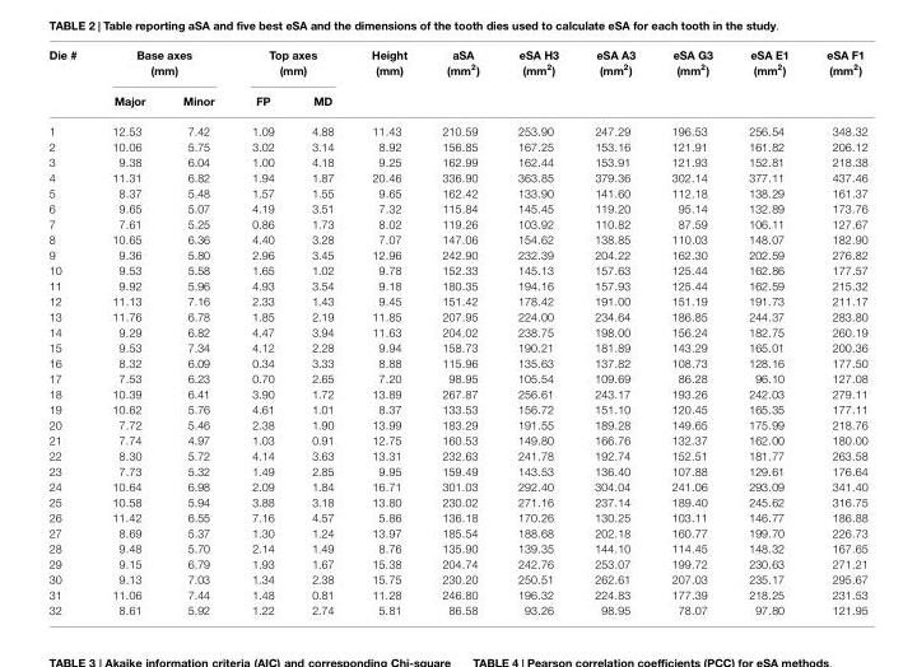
<table><thead><tr><td rowspan="2">Die #</td><td colspan="2">Base axes (mm)</td><td colspan="2">Top axes (mm)</td><td rowspan="2">Height (mm)</td><td rowspan="2">aSA (mm<sup>2</sup>)</td><td rowspan="2">eSA H3 (mm<sup>2</sup>)</td><td rowspan="2">eSA A3 (mm<sup>2</sup>)</td><td rowspan="2">eSA G3 (mm<sup>2</sup>)</td><td rowspan="2">eSA E1 (mm<sup>2</sup>)</td><td rowspan="2">eSA F1 (mm<sup>2</sup>)</td></tr><tr><td>Major</td><td>Minor</td><td>FP</td><td>MD</td></tr></thead><tbody><tr><td>1</td><td>12.53</td><td>7.42</td><td>1.09</td><td>4.88</td><td>11.43</td><td>210.59</td><td>253.90</td><td>247.29</td><td>196.53</td><td>256.54</td><td>348.32</td></tr><tr><td>2</td><td>10.06</td><td>5.75</td><td>3.02</td><td>3.14</td><td>8.92</td><td>156.85</td><td>167.25</td><td>153.16</td><td>121.91</td><td>161.82</td><td>206.12</td></tr><tr><td>3</td><td>9.38</td><td>6.04</td><td>1.00</td><td>4.18</td><td>9.25</td><td>162.99</td><td>162.44</td><td>153.91</td><td>121.93</td><td>152.81</td><td>218.38</td></tr><tr><td>4</td><td>11.31</td><td>6.82</td><td>1.94</td><td>1.87</td><td>20.46</td><td>336.90</td><td>363.85</td><td>379.36</td><td>302.14</td><td>377.11</td><td>437.46</td></tr><tr><td>5</td><td>8.37</td><td>5.48</td><td>1.57</td><td>1.55</td><td>9.65</td><td>162.42</td><td>133.90</td><td>141.60</td><td>112.18</td><td>138.29</td><td>161.37</td></tr><tr><td>6</td><td>9.65</td><td>5.07</td><td>4.19</td><td>3.51</td><td>7.32</td><td>115.84</td><td>145.45</td><td>119.20</td><td>95.14</td><td>132.89</td><td>173.76</td></tr><tr><td>7</td><td>7.61</td><td>5.25</td><td>0.86</td><td>1.73</td><td>8.02</td><td>119.26</td><td>103.92</td><td>110.82</td><td>87.59</td><td>106.11</td><td>127.67</td></tr><tr><td>8</td><td>10.65</td><td>6.36</td><td>4.40</td><td>3.28</td><td>7.07</td><td>147.06</td><td>154.62</td><td>138.85</td><td>110.03</td><td>148.07</td><td>182.90</td></tr><tr><td>9</td><td>9.36</td><td>5.80</td><td>2.96</td><td>3.45</td><td>12.96</td><td>242.90</td><td>232.39</td><td>204.22</td><td>162.30</td><td>202.59</td><td>276.82</td></tr><tr><td>10</td><td>9.53</td><td>5.58</td><td>1.65</td><td>1.02</td><td>9.78</td><td>152.33</td><td>145.13</td><td>157.63</td><td>125.44</td><td>162.86</td><td>177.57</td></tr><tr><td>11</td><td>9.92</td><td>5.96</td><td>4.93</td><td>3.54</td><td>9.18</td><td>180.35</td><td>194.16</td><td>157.93</td><td>125.44</td><td>162.59</td><td>215.32</td></tr><tr><td>12</td><td>11.13</td><td>7.16</td><td>2.33</td><td>1.43</td><td>9.45</td><td>151.42</td><td>178.42</td><td>191.00</td><td>151.19</td><td>191.73</td><td>211.17</td></tr><tr><td>13</td><td>11.76</td><td>6.78</td><td>1.85</td><td>2.19</td><td>11.85</td><td>207.95</td><td>224.00</td><td>234.64</td><td>186.85</td><td>244.37</td><td>283.80</td></tr><tr><td>14</td><td>9.29</td><td>6.82</td><td>4.47</td><td>3.94</td><td>11.63</td><td>204.02</td><td>238.75</td><td>198.00</td><td>156.24</td><td>182.75</td><td>260.19</td></tr><tr><td>15</td><td>9.53</td><td>7.34</td><td>4.12</td><td>2.28</td><td>9.94</td><td>158.73</td><td>190.21</td><td>181.89</td><td>143.29</td><td>165.01</td><td>200.36</td></tr><tr><td>16</td><td>8.32</td><td>6.09</td><td>0.34</td><td>3.33</td><td>8.88</td><td>115.96</td><td>135.63</td><td>137.82</td><td>108.73</td><td>128.16</td><td>177.50</td></tr><tr><td>17</td><td>7.53</td><td>6.23</td><td>0.70</td><td>2.65</td><td>7.20</td><td>98.95</td><td>105.54</td><td>109.69</td><td>86.28</td><td>96.10</td><td>127.08</td></tr><tr><td>18</td><td>10.39</td><td>6.41</td><td>3.90</td><td>1.72</td><td>13.89</td><td>267.87</td><td>256.61</td><td>243.17</td><td>193.26</td><td>242.03</td><td>279.11</td></tr><tr><td>19</td><td>10.62</td><td>5.76</td><td>4.61</td><td>1.01</td><td>8.37</td><td>133.53</td><td>156.72</td><td>151.10</td><td>120.45</td><td>165.35</td><td>177.11</td></tr><tr><td>20</td><td>7.72</td><td>5.46</td><td>2.38</td><td>1.90</td><td>13.99</td><td>183.29</td><td>191.55</td><td>189.28</td><td>149.65</td><td>175.99</td><td>218.76</td></tr><tr><td>21</td><td>7.74</td><td>4.97</td><td>1.03</td><td>0.91</td><td>12.75</td><td>160.53</td><td>149.80</td><td>166.76</td><td>132.37</td><td>162.00</td><td>180.00</td></tr><tr><td>22</td><td>8.30</td><td>5.72</td><td>4.14</td><td>3.63</td><td>13.31</td><td>232.63</td><td>241.78</td><td>192.74</td><td>152.51</td><td>181.77</td><td>263.58</td></tr><tr><td>23</td><td>7.73</td><td>5.32</td><td>1.49</td><td>2.85</td><td>9.95</td><td>159.49</td><td>143.53</td><td>136.40</td><td>107.88</td><td>129.61</td><td>176.64</td></tr><tr><td>24</td><td>10.64</td><td>6.98</td><td>2.09</td><td>1.84</td><td>16.71</td><td>301.03</td><td>292.40</td><td>304.04</td><td>241.06</td><td>293.09</td><td>341.40</td></tr><tr><td>25</td><td>10.58</td><td>5.94</td><td>3.88</td><td>3.18</td><td>13.80</td><td>230.02</td><td>271.16</td><td>237.14</td><td>189.40</td><td>245.62</td><td>316.75</td></tr><tr><td>26</td><td>11.42</td><td>6.55</td><td>7.16</td><td>4.57</td><td>5.86</td><td>136.18</td><td>170.26</td><td>130.25</td><td>103.11</td><td>146.77</td><td>186.88</td></tr><tr><td>27</td><td>8.69</td><td>5.37</td><td>1.30</td><td>1.24</td><td>13.97</td><td>185.54</td><td>188.68</td><td>202.18</td><td>160.77</td><td>199.70</td><td>226.73</td></tr><tr><td>28</td><td>9.48</td><td>5.70</td><td>2.14</td><td>1.49</td><td>8.76</td><td>135.90</td><td>139.35</td><td>144.10</td><td>114.45</td><td>148.32</td><td>167.65</td></tr><tr><td>29</td><td>9.15</td><td>6.79</td><td>1.93</td><td>1.67</td><td>15.38</td><td>204.74</td><td>242.76</td><td>253.07</td><td>199.72</td><td>230.63</td><td>271.21</td></tr><tr><td>30</td><td>9.13</td><td>7.03</td><td>1.34</td><td>2.38</td><td>15.75</td><td>230.20</td><td>250.51</td><td>262.61</td><td>207.03</td><td>235.17</td><td>295.67</td></tr><tr><td>31</td><td>11.06</td><td>7.44</td><td>1.48</td><td>0.81</td><td>11.28</td><td>246.80</td><td>196.32</td><td>224.83</td><td>177.39</td><td>218.25</td><td>231.53</td></tr><tr><td>32</td><td>8.61</td><td>5.92</td><td>1.22</td><td>2.74</td><td>5.81</td><td>86.58</td><td>93.26</td><td>98.95</td><td>78.07</td><td>97.80</td><td>121.95</td></tr></tbody></table>